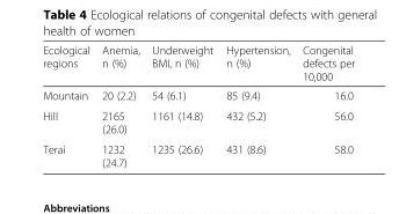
<table><thead><tr><td>Ecological regions</td><td>Anemia, n (%)</td><td>Underweight BMI, n (%)</td><td>Hypertension, n (%)</td><td>Congenital defects per 10,000</td></tr></thead><tbody><tr><td>Mountain</td><td>20 (2.2)</td><td>54 (6.1)</td><td>85 (9.4)</td><td>16.0</td></tr><tr><td>Hill</td><td>2165 (26.0)</td><td>1161 (14.8)</td><td>432 (5.2)</td><td>56.0</td></tr><tr><td>Terai</td><td>1232 (24.7)</td><td>1235 (26.6)</td><td>431 (8.6)</td><td>58.0</td></tr></tbody></table>